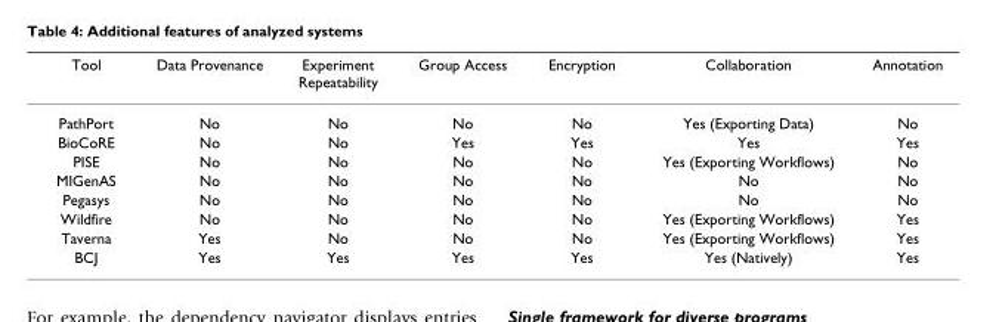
<table><thead><tr><td>Tool</td><td>Data Provenance</td><td>Experiment Repeatability</td><td>Group Access</td><td>Encryption</td><td>Collaboration</td><td>Annotation</td></tr></thead><tbody><tr><td>PathPort</td><td>No</td><td>No</td><td>No</td><td>No</td><td>Yes (Exporting Data)</td><td>No</td></tr><tr><td>BioCoRE</td><td>No</td><td>No</td><td>Yes</td><td>Yes</td><td>Yes</td><td>Yes</td></tr><tr><td>PISE</td><td>No</td><td>No</td><td>No</td><td>No</td><td>Yes (Exporting Workflows)</td><td>No</td></tr><tr><td>MIGenAS</td><td>No</td><td>No</td><td>No</td><td>No</td><td>No</td><td>No</td></tr><tr><td>Pegasys</td><td>No</td><td>No</td><td>No</td><td>No</td><td>No</td><td>No</td></tr><tr><td>Wildfire</td><td>No</td><td>No</td><td>No</td><td>No</td><td>Yes (Exporting Workflows)</td><td>Yes</td></tr><tr><td>Taverna</td><td>Yes</td><td>No</td><td>No</td><td>No</td><td>Yes (Exporting Workflows)</td><td>Yes</td></tr><tr><td>BCJ</td><td>Yes</td><td>Yes</td><td>Yes</td><td>Yes</td><td>Yes (Natively)</td><td>Yes</td></tr></tbody></table>